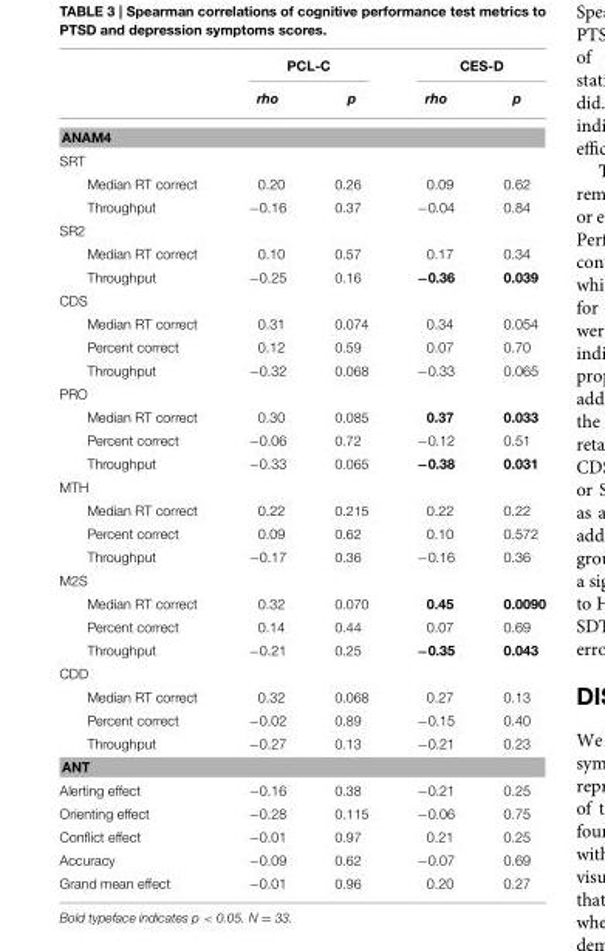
<table><thead><tr><td rowspan="2"></td><td colspan="2">PCL-C</td><td colspan="2">CES-D</td></tr><tr><td>rho</td><td>p</td><td>rho</td><td>p</td></tr></thead><tbody><tr><td colspan="5">ANAM4</td></tr><tr><td colspan="5">SRT</td></tr><tr><td>Median RT correct</td><td>0.20</td><td>0.26</td><td>0.09</td><td>0.62</td></tr><tr><td>Throughput</td><td>−0.16</td><td>0.37</td><td>−0.04</td><td>0.84</td></tr><tr><td colspan="5">SR2</td></tr><tr><td>Median RT correct</td><td>0.10</td><td>0.57</td><td>0.17</td><td>0.34</td></tr><tr><td>Throughput</td><td>−0.25</td><td>0.16</td><td>−0.36</td><td>0.039</td></tr><tr><td colspan="5">CDS</td></tr><tr><td>Median RT correct</td><td>0.31</td><td>0.074</td><td>0.34</td><td>0.054</td></tr><tr><td>Percent correct</td><td>0.12</td><td>0.59</td><td>0.07</td><td>0.70</td></tr><tr><td>Throughput</td><td>−0.32</td><td>0.068</td><td>−0.33</td><td>0.065</td></tr><tr><td colspan="5">PRO</td></tr><tr><td>Median RT correct</td><td>0.30</td><td>0.085</td><td>0.37</td><td>0.033</td></tr><tr><td>Percent correct</td><td>−0.06</td><td>0.72</td><td>−0.12</td><td>0.51</td></tr><tr><td>Throughput</td><td>−0.33</td><td>0.065</td><td>−0.38</td><td>0.031</td></tr><tr><td colspan="5">MTH</td></tr><tr><td>Median RT correct</td><td>0.22</td><td>0.215</td><td>0.22</td><td>0.22</td></tr><tr><td>Percent correct</td><td>0.09</td><td>0.62</td><td>0.10</td><td>0.572</td></tr><tr><td>Throughput</td><td>−0.17</td><td>0.36</td><td>−0.16</td><td>0.36</td></tr><tr><td colspan="5">M2S</td></tr><tr><td>Median RT correct</td><td>0.32</td><td>0.070</td><td>0.45</td><td>0.0090</td></tr><tr><td>Percent correct</td><td>0.14</td><td>0.44</td><td>0.07</td><td>0.69</td></tr><tr><td>Throughput</td><td>−0.21</td><td>0.25</td><td>−0.35</td><td>0.043</td></tr><tr><td colspan="5">CDD</td></tr><tr><td>Median RT correct</td><td>0.32</td><td>0.068</td><td>0.27</td><td>0.13</td></tr><tr><td>Percent correct</td><td>−0.02</td><td>0.89</td><td>−0.15</td><td>0.40</td></tr><tr><td>Throughput</td><td>−0.27</td><td>0.13</td><td>−0.21</td><td>0.23</td></tr><tr><td colspan="5">ANT</td></tr><tr><td>Alerting effect</td><td>−0.16</td><td>0.38</td><td>−0.21</td><td>0.25</td></tr><tr><td>Orienting effect</td><td>−0.28</td><td>0.115</td><td>−0.06</td><td>0.75</td></tr><tr><td>Conflict effect</td><td>−0.01</td><td>0.97</td><td>0.21</td><td>0.25</td></tr><tr><td>Accuracy</td><td>−0.09</td><td>0.62</td><td>−0.07</td><td>0.69</td></tr><tr><td>Grand mean effect</td><td>−0.01</td><td>0.96</td><td>0.20</td><td>0.27</td></tr></tbody></table>